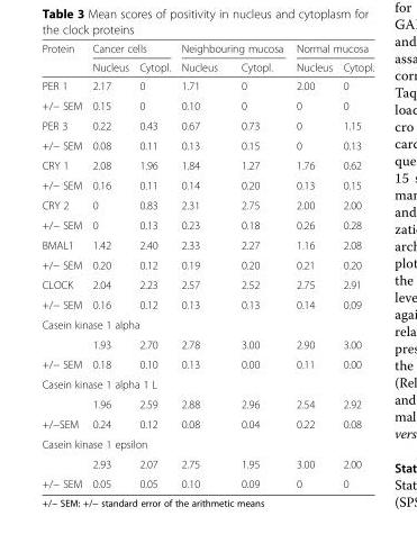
<table><thead><tr><td rowspan="2">Protein</td><td colspan="2">Cancer cells</td><td colspan="2">Neighbouring mucosa</td><td colspan="2">Normal mucosa</td></tr><tr><td>Nucleus</td><td>Cytopl.</td><td>Nucleus</td><td>Cytopl.</td><td>Nucleus</td><td>Cytopl.</td></tr></thead><tbody><tr><td>PER 1</td><td>2.17</td><td>0</td><td>1.71</td><td>0</td><td>2.00</td><td>0</td></tr><tr><td>+/− SEM</td><td>0.15</td><td>0</td><td>0.10</td><td>0</td><td>0</td><td>0</td></tr><tr><td>PER 3</td><td>0.22</td><td>0.43</td><td>0.67</td><td>0.73</td><td>0</td><td>1.15</td></tr><tr><td>+/− SEM</td><td>0.08</td><td>0.11</td><td>0.13</td><td>0.15</td><td>0</td><td>0.13</td></tr><tr><td>CRY 1</td><td>2.08</td><td>1.96</td><td>1.84</td><td>1.27</td><td>1.76</td><td>0.62</td></tr><tr><td>+/− SEM</td><td>0.16</td><td>0.11</td><td>0.14</td><td>0.20</td><td>0.13</td><td>0.15</td></tr><tr><td>CRY 2</td><td>0</td><td>0.83</td><td>2.31</td><td>2.75</td><td>2.00</td><td>2.00</td></tr><tr><td>+/− SEM</td><td>0</td><td>0.13</td><td>0.23</td><td>0.18</td><td>0.26</td><td>0.28</td></tr><tr><td>BMAL1</td><td>1.42</td><td>2.40</td><td>2.33</td><td>2.27</td><td>1.16</td><td>2.08</td></tr><tr><td>+/− SEM</td><td>0.20</td><td>0.12</td><td>0.19</td><td>0.20</td><td>0.21</td><td>0.20</td></tr><tr><td>CLOCK</td><td>2.04</td><td>2.23</td><td>2.57</td><td>2.52</td><td>2.75</td><td>2.91</td></tr><tr><td>+/− SEM</td><td>0.16</td><td>0.12</td><td>0.13</td><td>0.13</td><td>0.14</td><td>0.09</td></tr><tr><td colspan="7">Casein kinase 1 alpha</td></tr><tr><td></td><td>1.93</td><td>2.70</td><td>2.78</td><td>3.00</td><td>2.90</td><td>3.00</td></tr><tr><td>+/− SEM</td><td>0.18</td><td>0.10</td><td>0.13</td><td>0.00</td><td>0.11</td><td>0.00</td></tr><tr><td colspan="7">Casein kinase 1 alpha 1 L</td></tr><tr><td></td><td>1.96</td><td>2.59</td><td>2.88</td><td>2.96</td><td>2.54</td><td>2.92</td></tr><tr><td>+/−SEM</td><td>0.24</td><td>0.12</td><td>0.08</td><td>0.04</td><td>0.22</td><td>0.08</td></tr><tr><td colspan="7">Casein kinase 1 epsilon</td></tr><tr><td></td><td>2.93</td><td>2.07</td><td>2.75</td><td>1.95</td><td>3.00</td><td>2.00</td></tr><tr><td>+/− SEM</td><td>0.05</td><td>0.05</td><td>0.10</td><td>0.09</td><td>0</td><td>0</td></tr></tbody></table>